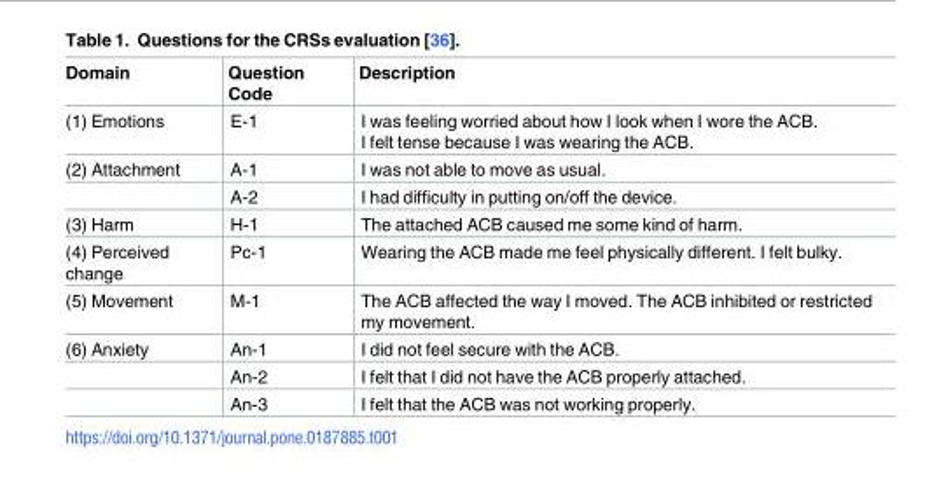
<table><thead><tr><td>Domain</td><td>Question Code</td><td>Description</td></tr></thead><tbody><tr><td>(1) Emotions</td><td>E-1</td><td>I was feeling worried about how I look when I wore the ACB. I felt tense because I was wearing the ACB.</td></tr><tr><td rowspan="2">(2) Attachment</td><td>A-1</td><td>I was not able to move as usual.</td></tr><tr><td>A-2</td><td>I had difficulty in putting on/off the device.</td></tr><tr><td>(3) Harm</td><td>H-1</td><td>The attached ACB caused me some kind of harm.</td></tr><tr><td>(4) Perceived change</td><td>Pc-1</td><td>Wearing the ACB made me feel physically different. I felt bulky.</td></tr><tr><td>(5) Movement</td><td>M-1</td><td>The ACB affected the way I moved. The ACB inhibited or restricted my movement.</td></tr><tr><td rowspan="3">(6) Anxiety</td><td>An-1</td><td>I did not feel secure with the ACB.</td></tr><tr><td>An-2</td><td>I felt that I did not have the ACB properly attached.</td></tr><tr><td>An-3</td><td>I felt that the ACB was not working properly.</td></tr></tbody></table>